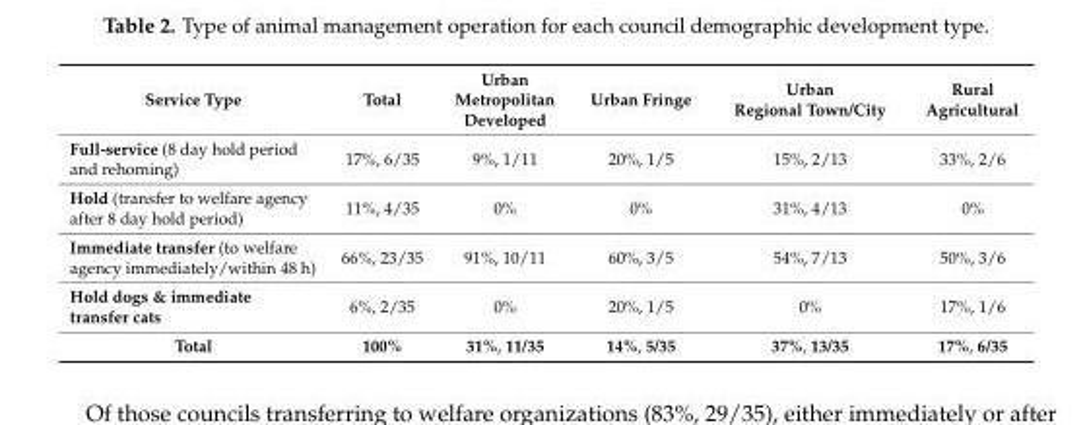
<table><thead><tr><td>Service Type</td><td>Total</td><td>Urban Metropolitan Developed</td><td>Urban Fringe</td><td>Urban Regional Town/City</td><td>Rural Agricultural</td></tr></thead><tbody><tr><td>Full-service (8 day hold period and rehoming)</td><td>17%, 6/35</td><td>9%, 1/11</td><td>20%, 1/5</td><td>15%, 2/13</td><td>33%, 2/6</td></tr><tr><td>Hold (transfer to welfare agency after 8 day hold period)</td><td>11%, 4/35</td><td>0%</td><td>0%</td><td>31%, 4/13</td><td>0%</td></tr><tr><td>Immediate transfer (to welfare agency immediately/within 48 h)</td><td>66%, 23/35</td><td>91%, 10/11</td><td>60%, 3/5</td><td>54%, 7/13</td><td>50%, 3/6</td></tr><tr><td>Hold dogs &amp; immediate transfer cats</td><td>6%, 2/35</td><td>0%</td><td>20%, 1/5</td><td>0%</td><td>17%, 1/6</td></tr><tr><td>Total</td><td>100%</td><td>31%, 11/35</td><td>14%, 5/35</td><td>37%, 13/35</td><td>17%, 6/35</td></tr></tbody></table>